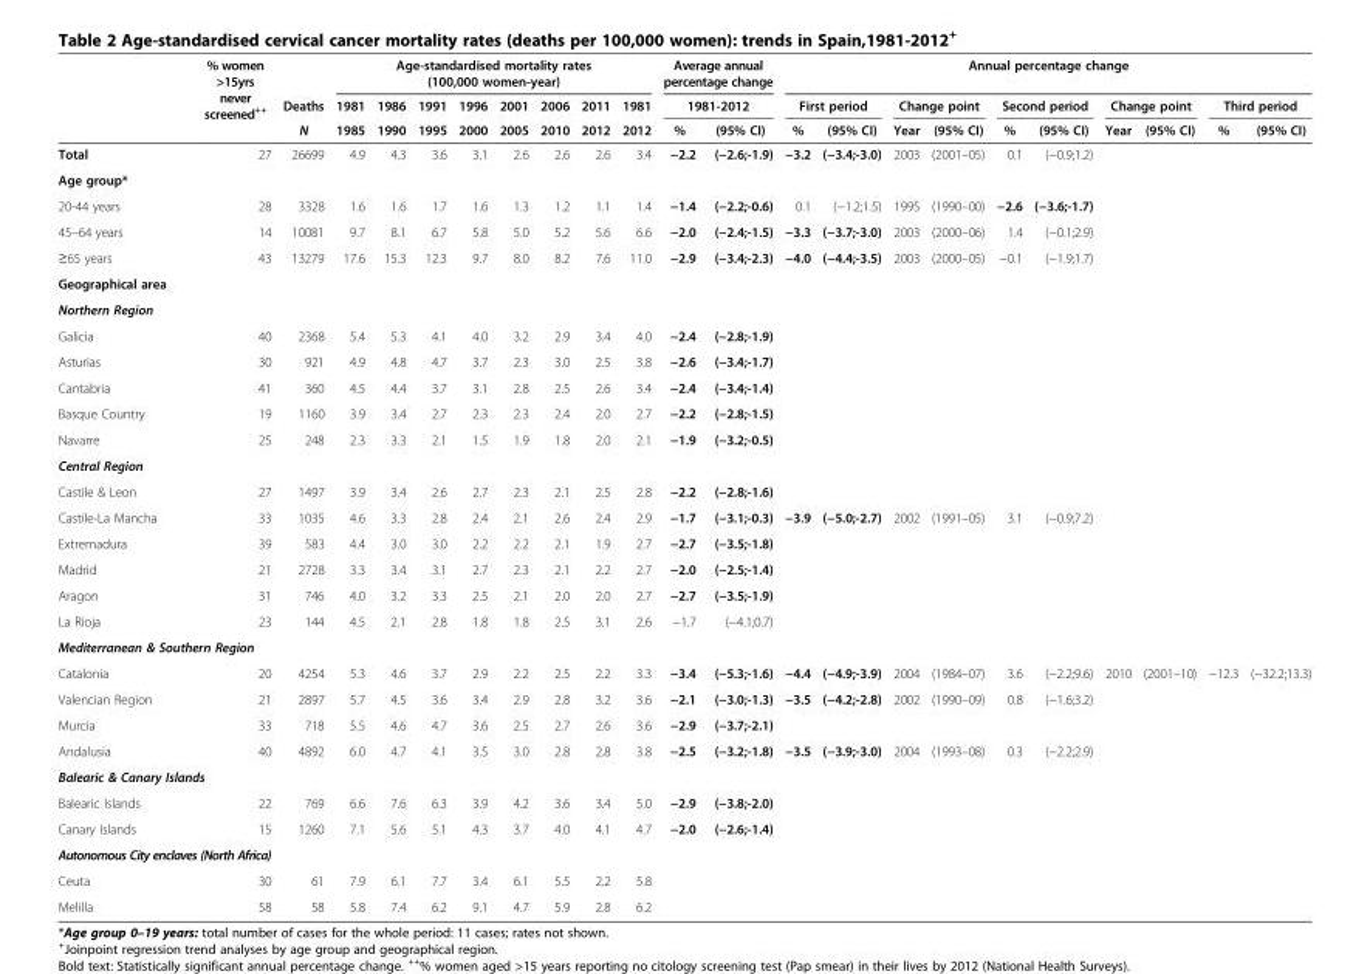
<table><thead><tr><td rowspan="3"></td><td rowspan="3">% women &gt;15yrs never screened<sup>++</sup></td><td rowspan="3">Deaths N</td><td colspan="8">Age-standardised mortality rates (100,000 women-year)</td><td rowspan="2" colspan="2">Average annual percentage change 1981-2012</td><td colspan="10">Annual percentage change</td></tr><tr><td rowspan="2">1981 1985</td><td rowspan="2">1986 1990</td><td rowspan="2">1991 1995</td><td rowspan="2">1996 2000</td><td rowspan="2">2001 2005</td><td rowspan="2">2006 2010</td><td rowspan="2">2011 2012</td><td rowspan="2">1981 2012</td><td colspan="2">First period</td><td colspan="2">Change point</td><td colspan="2">Second period</td><td colspan="2">Change point</td><td colspan="2">Third period</td></tr><tr><td>%</td><td>(95% CI)</td><td>%</td><td>(95% CI)</td><td>Year</td><td>(95% CI)</td><td>%</td><td>(95% CI)</td><td>Year</td><td>(95% CI)</td><td>%</td><td>(95% CI)</td></tr></thead><tbody><tr><td>Total</td><td>27</td><td>26699</td><td>4.9</td><td>4.3</td><td>3.6</td><td>3.1</td><td>2.6</td><td>2.6</td><td>2.6</td><td>3.4</td><td>−2.2</td><td>(−2.6;-1.9)</td><td>−3.2</td><td>(−3.4;-3.0)</td><td>2003</td><td>(2001–05)</td><td>0.1</td><td>(−0.9;1.2)</td><td></td><td></td><td></td><td></td></tr><tr><td colspan="23">Age group*</td></tr><tr><td>20-44 years</td><td>28</td><td>3328</td><td>1.6</td><td>1.6</td><td>1.7</td><td>1.6</td><td>1.3</td><td>1.2</td><td>1.1</td><td>1.4</td><td>−1.4</td><td>(−2.2;-0.6)</td><td>0.1</td><td>(−1.2;1.5)</td><td>1995</td><td>(1990–00)</td><td>−2.6</td><td>(−3.6;-1.7)</td><td></td><td></td><td></td><td></td></tr><tr><td>45–64 years</td><td>14</td><td>10081</td><td>9.7</td><td>8.1</td><td>6.7</td><td>5.8</td><td>5.0</td><td>5.2</td><td>5.6</td><td>6.6</td><td>−2.0</td><td>(−2.4;-1.5)</td><td>−3.3</td><td>(−3.7;-3.0)</td><td>2003</td><td>(2000–06)</td><td>1.4</td><td>(−0.1;2.9)</td><td></td><td></td><td></td><td></td></tr><tr><td>≥65 years</td><td>43</td><td>13279</td><td>17.6</td><td>15.3</td><td>12.3</td><td>9.7</td><td>8.0</td><td>8.2</td><td>7.6</td><td>11.0</td><td>−2.9</td><td>(−3.4;-2.3)</td><td>−4.0</td><td>(−4.4;-3.5)</td><td>2003</td><td>(2000–05)</td><td>−0.1</td><td>(−1.9;1.7)</td><td></td><td></td><td></td><td></td></tr><tr><td colspan="23">Geographical area</td></tr><tr><td colspan="23">Northern Region</td></tr><tr><td>Galicia</td><td>40</td><td>2368</td><td>5.4</td><td>5.3</td><td>4.1</td><td>4.0</td><td>3.2</td><td>2.9</td><td>3.4</td><td>4.0</td><td>−2.4</td><td>(−2.8;-1.9)</td><td></td><td></td><td></td><td></td><td></td><td></td><td></td><td></td><td></td><td></td></tr><tr><td>Asturias</td><td>30</td><td>921</td><td>4.9</td><td>4.8</td><td>4.7</td><td>3.7</td><td>2.3</td><td>3.0</td><td>2.5</td><td>3.8</td><td>−2.6</td><td>(−3.4;-1.7)</td><td></td><td></td><td></td><td></td><td></td><td></td><td></td><td></td><td></td><td></td></tr><tr><td>Cantabria</td><td>41</td><td>360</td><td>4.5</td><td>4.4</td><td>3.7</td><td>3.1</td><td>2.8</td><td>2.5</td><td>2.6</td><td>3.4</td><td>−2.4</td><td>(−3.4;-1.4)</td><td></td><td></td><td></td><td></td><td></td><td></td><td></td><td></td><td></td><td></td></tr><tr><td>Basque Country</td><td>19</td><td>1160</td><td>3.9</td><td>3.4</td><td>2.7</td><td>2.3</td><td>2.3</td><td>2.4</td><td>2.0</td><td>2.7</td><td>−2.2</td><td>(−2.8;-1.5)</td><td></td><td></td><td></td><td></td><td></td><td></td><td></td><td></td><td></td><td></td></tr><tr><td>Navarre</td><td>25</td><td>248</td><td>2.3</td><td>3.3</td><td>2.1</td><td>1.5</td><td>1.9</td><td>1.8</td><td>2.0</td><td>2.1</td><td>−1.9</td><td>(−3.2;-0.5)</td><td></td><td></td><td></td><td></td><td></td><td></td><td></td><td></td><td></td><td></td></tr><tr><td colspan="23">Central Region</td></tr><tr><td>Castile &amp; Leon</td><td>27</td><td>1497</td><td>3.9</td><td>3.4</td><td>2.6</td><td>2.7</td><td>2.3</td><td>2.1</td><td>2.5</td><td>2.8</td><td>−2.2</td><td>(−2.8;-1.6)</td><td></td><td></td><td></td><td></td><td></td><td></td><td></td><td></td><td></td><td></td></tr><tr><td>Castile-La Mancha</td><td>33</td><td>1035</td><td>4.6</td><td>3.3</td><td>2.8</td><td>2.4</td><td>2.1</td><td>2.6</td><td>2.4</td><td>2.9</td><td>−1.7</td><td>(−3.1;-0.3)</td><td>−3.9</td><td>(−5.0;-2.7)</td><td>2002</td><td>(1991–05)</td><td>3.1</td><td>(−0.9;7.2)</td><td></td><td></td><td></td><td></td></tr><tr><td>Extremadura</td><td>39</td><td>583</td><td>4.4</td><td>3.0</td><td>3.0</td><td>2.2</td><td>2.2</td><td>2.1</td><td>1.9</td><td>2.7</td><td>−2.7</td><td>(−3.5;-1.8)</td><td></td><td></td><td></td><td></td><td></td><td></td><td></td><td></td><td></td><td></td></tr><tr><td>Madrid</td><td>21</td><td>2728</td><td>3.3</td><td>3.4</td><td>3.1</td><td>2.7</td><td>2.3</td><td>2.1</td><td>2.2</td><td>2.7</td><td>−2.0</td><td>(−2.5;-1.4)</td><td></td><td></td><td></td><td></td><td></td><td></td><td></td><td></td><td></td><td></td></tr><tr><td>Aragon</td><td>31</td><td>746</td><td>4.0</td><td>3.2</td><td>3.3</td><td>2.5</td><td>2.1</td><td>2.0</td><td>2.0</td><td>2.7</td><td>−2.7</td><td>(−3.5;-1.9)</td><td></td><td></td><td></td><td></td><td></td><td></td><td></td><td></td><td></td><td></td></tr><tr><td>La Rioja</td><td>23</td><td>144</td><td>4.5</td><td>2.1</td><td>2.8</td><td>1.8</td><td>1.8</td><td>2.5</td><td>3.1</td><td>2.6</td><td>−1.7</td><td>(−4.1;0.7)</td><td></td><td></td><td></td><td></td><td></td><td></td><td></td><td></td><td></td><td></td></tr><tr><td colspan="23">Mediterranean &amp; Southern Region</td></tr><tr><td>Catalonia</td><td>20</td><td>4254</td><td>5.3</td><td>4.6</td><td>3.7</td><td>2.9</td><td>2.2</td><td>2.5</td><td>2.2</td><td>3.3</td><td>−3.4</td><td>(−5.3;-1.6)</td><td>−4.4</td><td>(−4.9;-3.9)</td><td>2004</td><td>(1984–07)</td><td>3.6</td><td>(−2.2;9.6)</td><td>2010</td><td>(2001–10)</td><td>−12.3</td><td>(−32.2;13.3)</td></tr><tr><td>Valencian Region</td><td>21</td><td>2897</td><td>5.7</td><td>4.5</td><td>3.6</td><td>3.4</td><td>2.9</td><td>2.8</td><td>3.2</td><td>3.6</td><td>−2.1</td><td>(−3.0;-1.3)</td><td>−3.5</td><td>(−4.2;-2.8)</td><td>2002</td><td>(1990–09)</td><td>0.8</td><td>(−1.6;3.2)</td><td></td><td></td><td></td><td></td></tr><tr><td>Murcia</td><td>33</td><td>718</td><td>5.5</td><td>4.6</td><td>4.7</td><td>3.6</td><td>2.5</td><td>2.7</td><td>2.6</td><td>3.6</td><td>−2.9</td><td>(−3.7;-2.1)</td><td></td><td></td><td></td><td></td><td></td><td></td><td></td><td></td><td></td><td></td></tr><tr><td>Andalusia</td><td>40</td><td>4892</td><td>6.0</td><td>4.7</td><td>4.1</td><td>3.5</td><td>3.0</td><td>2.8</td><td>2.8</td><td>3.8</td><td>−2.5</td><td>(−3.2;-1.8)</td><td>−3.5</td><td>(−3.9;-3.0)</td><td>2004</td><td>(1993–08)</td><td>0.3</td><td>(−2.2;2.9)</td><td></td><td></td><td></td><td></td></tr><tr><td colspan="23">Balearic &amp; Canary Islands</td></tr><tr><td>Balearic Islands</td><td>22</td><td>769</td><td>6.6</td><td>7.6</td><td>6.3</td><td>3.9</td><td>4.2</td><td>3.6</td><td>3.4</td><td>5.0</td><td>−2.9</td><td>(−3.8;-2.0)</td><td></td><td></td><td></td><td></td><td></td><td></td><td></td><td></td><td></td><td></td></tr><tr><td>Canary Islands</td><td>15</td><td>1260</td><td>7.1</td><td>5.6</td><td>5.1</td><td>4.3</td><td>3.7</td><td>4.0</td><td>4.1</td><td>4.7</td><td>−2.0</td><td>(−2.6;-1.4)</td><td></td><td></td><td></td><td></td><td></td><td></td><td></td><td></td><td></td><td></td></tr><tr><td colspan="23">Autonomous City enclaves (North Africa)</td></tr><tr><td>Ceuta</td><td>30</td><td>61</td><td>7.9</td><td>6.1</td><td>7.7</td><td>3.4</td><td>6.1</td><td>5.5</td><td>2.2</td><td>5.8</td><td></td><td></td><td></td><td></td><td></td><td></td><td></td><td></td><td></td><td></td><td></td><td></td></tr><tr><td>Melilla</td><td>58</td><td>58</td><td>5.8</td><td>7.4</td><td>6.2</td><td>9.1</td><td>4.7</td><td>5.9</td><td>2.8</td><td>6.2</td><td></td><td></td><td></td><td></td><td></td><td></td><td></td><td></td><td></td><td></td><td></td><td></td></tr></tbody></table>